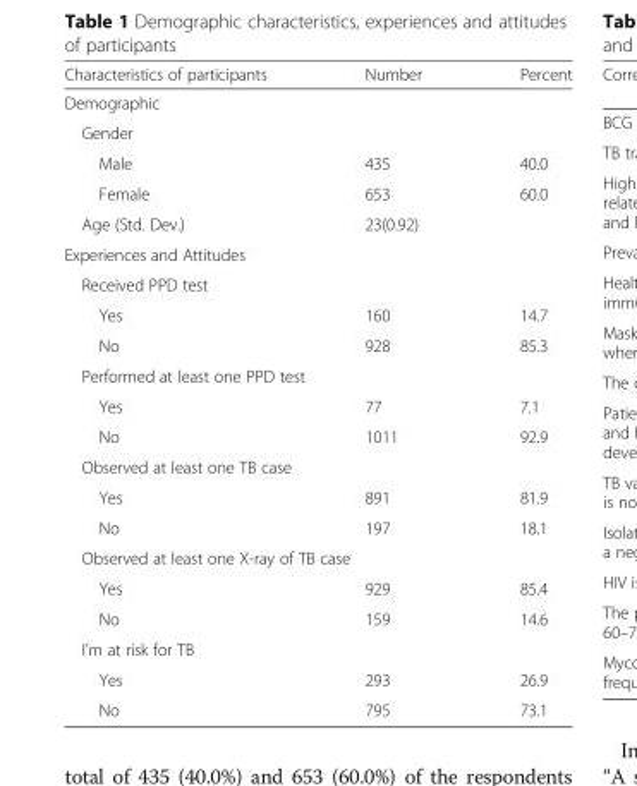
<table><thead><tr><td>Characteristics of participants</td><td>Number</td><td>Percent</td></tr></thead><tbody><tr><td colspan="3">Demographic</td></tr><tr><td colspan="3">Gender</td></tr><tr><td>Male</td><td>435</td><td>40.0</td></tr><tr><td>Female</td><td>653</td><td>60.0</td></tr><tr><td>Age (Std. Dev.)</td><td colspan="2">23(0.92)</td></tr><tr><td colspan="3">Experiences and Attitudes</td></tr><tr><td colspan="3">Received PPD test</td></tr><tr><td>Yes</td><td>160</td><td>14.7</td></tr><tr><td>No</td><td>928</td><td>85.3</td></tr><tr><td colspan="3">Performed at least one PPD test</td></tr><tr><td>Yes</td><td>77</td><td>7.1</td></tr><tr><td>No</td><td>1011</td><td>92.9</td></tr><tr><td colspan="3">Observed at least one TB case</td></tr><tr><td>Yes</td><td>891</td><td>81.9</td></tr><tr><td>No</td><td>197</td><td>18.1</td></tr><tr><td colspan="3">Observed at least one X-ray of TB case</td></tr><tr><td>Yes</td><td>929</td><td>85.4</td></tr><tr><td>No</td><td>159</td><td>14.6</td></tr><tr><td colspan="3">I’m at risk for TB</td></tr><tr><td>Yes</td><td>293</td><td>26.9</td></tr><tr><td>No</td><td>795</td><td>73.1</td></tr></tbody></table>